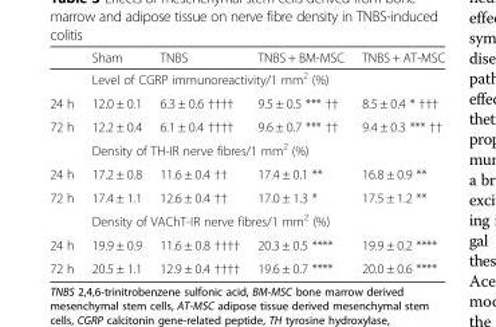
<table><thead><tr><td></td><td>Sham</td><td>TNBS</td><td>TNBS + BM-MSC</td><td>TNBS + AT-MSC</td></tr></thead><tbody><tr><td></td><td colspan="4">Level of CGRP immunoreactivity/1 mm<sup>2</sup> (%)</td></tr><tr><td>24 h</td><td>12.0 ± 0.1</td><td>6.3 ± 0.6 ††††</td><td>9.5 ± 0.5 *** ††</td><td>8.5 ± 0.4 * †††</td></tr><tr><td rowspan="2">72 h</td><td>12.2 ± 0.4</td><td>6.1 ± 0.4 ††††</td><td>9.6 ± 0.7 *** ††</td><td>9.4 ± 0.3 *** ††</td></tr><tr><td colspan="4">Density of TH-IR nerve fibres/1 mm<sup>2</sup> (%)</td></tr><tr><td>24 h</td><td>17.2 ± 0.8</td><td>11.6 ± 0.4 ††</td><td>17.4 ± 0.1 **</td><td>16.8 ± 0.9 **</td></tr><tr><td rowspan="2">72 h</td><td>17.4 ± 1.1</td><td>12.6 ± 0.4 ††</td><td>17.0 ± 1.3 *</td><td>17.5 ± 1.2 **</td></tr><tr><td colspan="4">Density of VAChT-IR nerve fibres/1 mm<sup>2</sup> (%)</td></tr><tr><td>24 h</td><td>19.9 ± 0.9</td><td>11.6 ± 0.8 ††††</td><td>20.3 ± 0.5 ****</td><td>19.9 ± 0.2 ****</td></tr><tr><td>72 h</td><td>20.5 ± 1.1</td><td>12.9 ± 0.4 ††††</td><td>19.6 ± 0.7 ****</td><td>20.0 ± 0.6 ****</td></tr></tbody></table>